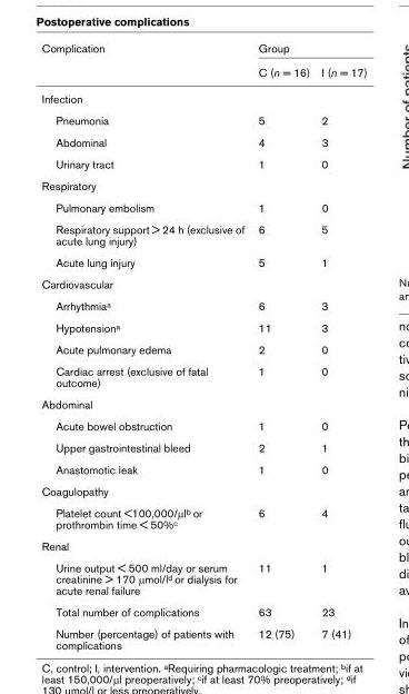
<table><thead><tr><td rowspan="2">Complication</td><td colspan="2">Group</td></tr><tr><td>C (n = 16)</td><td>I (n = 17)</td></tr></thead><tbody><tr><td colspan="3">Infection</td></tr><tr><td>Pneumonia</td><td>5</td><td>2</td></tr><tr><td>Abdominal</td><td>4</td><td>3</td></tr><tr><td>Urinary tract</td><td>1</td><td>0</td></tr><tr><td colspan="3">Respiratory</td></tr><tr><td>Pulmonary embolism</td><td>1</td><td>0</td></tr><tr><td>Respiratory support &gt; 24 h (exclusive of acute lung injury)</td><td>6</td><td>5</td></tr><tr><td>Acute lung injury</td><td>5</td><td>1</td></tr><tr><td colspan="3">Cardiovascular</td></tr><tr><td>Arrhythmia<sup>a</sup></td><td>6</td><td>3</td></tr><tr><td>Hypotension<sup>a</sup></td><td>11</td><td>3</td></tr><tr><td>Acute pulmonary edema</td><td>2</td><td>0</td></tr><tr><td>Cardiac arrest (exclusive of fatal outcome)</td><td>1</td><td>0</td></tr><tr><td colspan="3">Abdominal</td></tr><tr><td>Acute bowel obstruction</td><td>1</td><td>0</td></tr><tr><td>Upper gastrointestinal bleed</td><td>2</td><td>1</td></tr><tr><td>Anastomotic leak</td><td>1</td><td>0</td></tr><tr><td colspan="3">Coagulopathy</td></tr><tr><td>Platelet count &lt;100,000/μl<sup>b</sup> or prothrombin time &lt; 50%<sup>c</sup></td><td>6</td><td>4</td></tr><tr><td colspan="3">Renal</td></tr><tr><td>Urine output &lt; 500 ml/day or serum creatinine &gt; 170 μmol/l<sup>d</sup> or dialysis for acute renal failure</td><td>11</td><td>1</td></tr><tr><td>Total number of complications</td><td>63</td><td>23</td></tr><tr><td>Number (percentage) of patients with complications</td><td>12 (75)</td><td>7 (41)</td></tr></tbody></table>